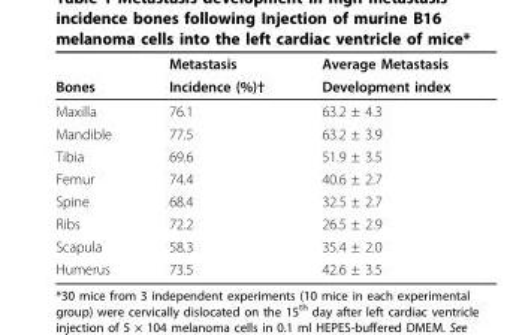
<table><thead><tr><td rowspan="2">Bones</td><td rowspan="2">Metastasis Incidence (%)†</td><td rowspan="2">Average Metastasis Development index</td></tr><tr></tr></thead><tbody><tr><td>Maxilla</td><td>76.1</td><td>63.2 ± 4.3</td></tr><tr><td>Mandible</td><td>77.5</td><td>63.2 ± 3.9</td></tr><tr><td>Tibia</td><td>69.6</td><td>51.9 ± 3.5</td></tr><tr><td>Femur</td><td>74.4</td><td>40.6 ± 2.7</td></tr><tr><td>Spine</td><td>68.4</td><td>32.5 ± 2.7</td></tr><tr><td>Ribs</td><td>72.2</td><td>26.5 ± 2.9</td></tr><tr><td>Scapula</td><td>58.3</td><td>35.4 ± 2.0</td></tr><tr><td>Humerus</td><td>73.5</td><td>42.6 ± 3.5</td></tr></tbody></table>